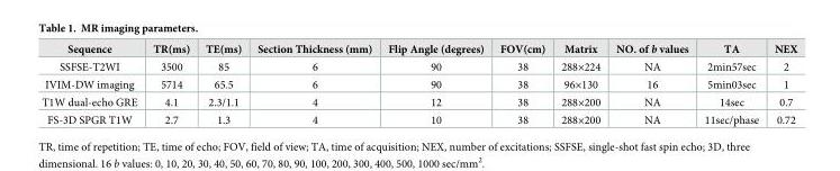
<table><thead><tr><td>Sequence</td><td>TR(ms)</td><td>TE(ms)</td><td>Section Thickness (mm)</td><td>Flip Angle (degrees)</td><td>FOV(cm)</td><td>Matrix</td><td>NO. of b values</td><td>TA</td><td>NEX</td></tr></thead><tbody><tr><td>SSFSE-T2WI</td><td>3500</td><td>85</td><td>6</td><td>90</td><td>38</td><td>288×224</td><td>NA</td><td>2min57sec</td><td>2</td></tr><tr><td>IVIM-DW imaging</td><td>5714</td><td>65.5</td><td>6</td><td>90</td><td>38</td><td>96×130</td><td>16</td><td>5min03sec</td><td>1</td></tr><tr><td>T1W dual-echo GRE</td><td>4.1</td><td>2.3/1.1</td><td>4</td><td>12</td><td>38</td><td>288×200</td><td>NA</td><td>14sec</td><td>0.7</td></tr><tr><td>FS-3D SPGR T1W</td><td>2.7</td><td>1.3</td><td>4</td><td>10</td><td>38</td><td>288×200</td><td>NA</td><td>11sec/phase</td><td>0.72</td></tr></tbody></table>